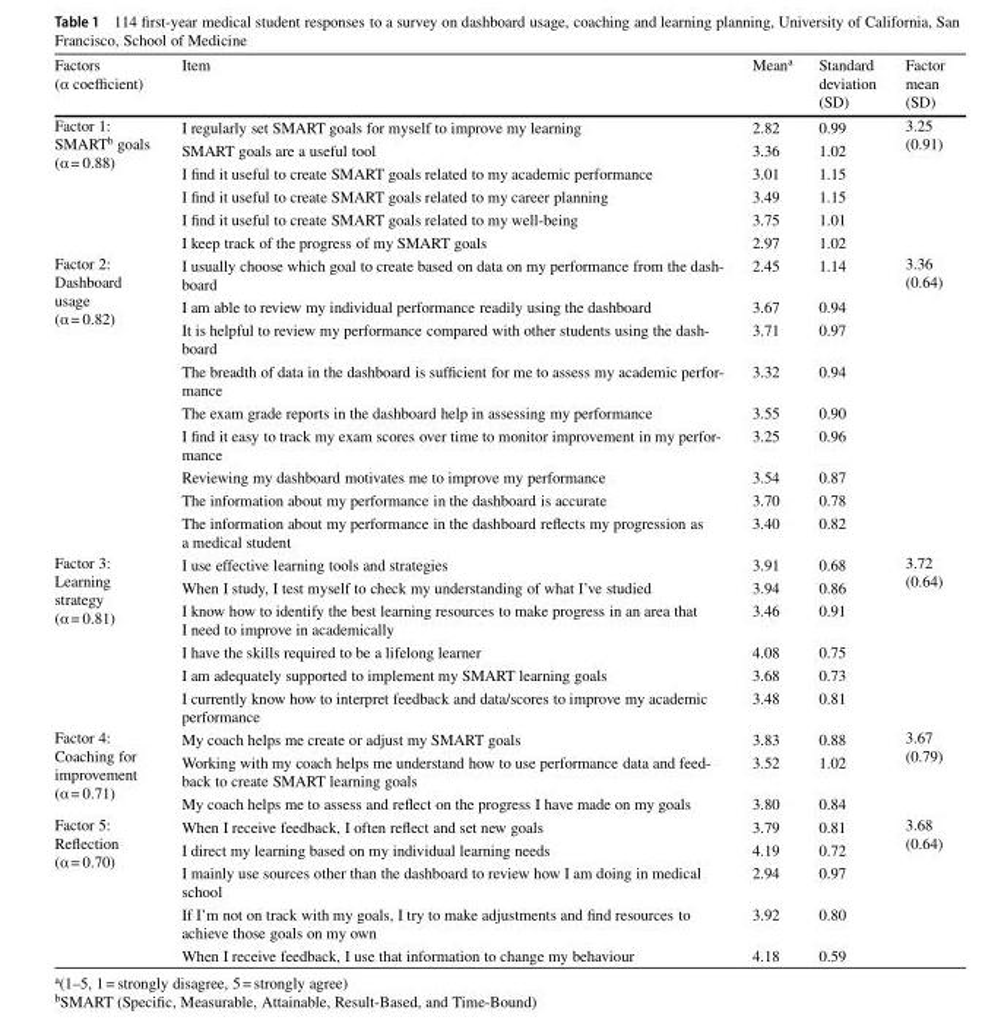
<table><thead><tr><td>Factors (α coefficient)</td><td>Item</td><td>Mean<sup>a</sup></td><td>Standard deviation (SD)</td><td>Factor mean (SD)</td></tr></thead><tbody><tr><td rowspan="6">Factor 1: SMART<sup>b</sup> goals (α= 0.88)</td><td>I regularly set SMART goals for myself to improve my learning</td><td>2.82</td><td>0.99</td><td rowspan="6">3.25 (0.91)</td></tr><tr><td>SMART goals are a useful tool</td><td>3.36</td><td>1.02</td></tr><tr><td>I find it useful to create SMART goals related to my academic performance</td><td>3.01</td><td>1.15</td></tr><tr><td>I find it useful to create SMART goals related to my career planning</td><td>3.49</td><td>1.15</td></tr><tr><td>I find it useful to create SMART goals related to my well-being</td><td>3.75</td><td>1.01</td></tr><tr><td>I keep track of the progress of my SMART goals</td><td>2.97</td><td>1.02</td></tr><tr><td rowspan="9">Factor 2: Dashboard usage (α= 0.82)</td><td>I usually choose which goal to create based on data on my performance from the dash- board</td><td>2.45</td><td>1.14</td><td rowspan="9">3.36 (0.64)</td></tr><tr><td>I am able to review my individual performance readily using the dashboard</td><td>3.67</td><td>0.94</td></tr><tr><td>It is helpful to review my performance compared with other students using the dash- board</td><td>3.71</td><td>0.97</td></tr><tr><td>The breadth of data in the dashboard is sufficient for me to assess my academic perfor- mance</td><td>3.32</td><td>0.94</td></tr><tr><td>The exam grade reports in the dashboard help in assessing my performance</td><td>3.55</td><td>0.90</td></tr><tr><td>I find it easy to track my exam scores over time to monitor improvement in my perfor- mance</td><td>3.25</td><td>0.96</td></tr><tr><td>Reviewing my dashboard motivates me to improve my performance</td><td>3.54</td><td>0.87</td></tr><tr><td>The information about my performance in the dashboard is accurate</td><td>3.70</td><td>0.78</td></tr><tr><td>The information about my performance in the dashboard reflects my progression as a medical student</td><td>3.40</td><td>0.82</td></tr><tr><td rowspan="6">Factor 3: Learning strategy (α= 0.81)</td><td>I use effective learning tools and strategies</td><td>3.91</td><td>0.68</td><td rowspan="6">3.72 (0.64)</td></tr><tr><td>When I study, I test myself to check my understanding of what I’ve studied</td><td>3.94</td><td>0.86</td></tr><tr><td>I know how to identify the best learning resources to make progress in an area that I need to improve in academically</td><td>3.46</td><td>0.91</td></tr><tr><td>I have the skills required to be a lifelong learner</td><td>4.08</td><td>0.75</td></tr><tr><td>I am adequately supported to implement my SMART learning goals</td><td>3.68</td><td>0.73</td></tr><tr><td>I currently know how to interpret feedback and data/scores to improve my academic performance</td><td>3.48</td><td>0.81</td></tr><tr><td rowspan="3">Factor 4: Coaching for improvement (α= 0.71)</td><td>My coach helps me create or adjust my SMART goals</td><td>3.83</td><td>0.88</td><td rowspan="3">3.67 (0.79)</td></tr><tr><td>Working with my coach helps me understand how to use performance data and feed- back to create SMART learning goals</td><td>3.52</td><td>1.02</td></tr><tr><td>My coach helps me to assess and reflect on the progress I have made on my goals</td><td>3.80</td><td>0.84</td></tr><tr><td rowspan="5">Factor 5: Reflection (α= 0.70)</td><td>When I receive feedback, I often reflect and set new goals</td><td>3.79</td><td>0.81</td><td rowspan="5">3.68 (0.64)</td></tr><tr><td>I direct my learning based on my individual learning needs</td><td>4.19</td><td>0.72</td></tr><tr><td>I mainly use sources other than the dashboard to review how I am doing in medical school</td><td>2.94</td><td>0.97</td></tr><tr><td>If I’m not on track with my goals, I try to make adjustments and find resources to achieve those goals on my own</td><td>3.92</td><td>0.80</td></tr><tr><td>When I receive feedback, I use that information to change my behaviour</td><td>4.18</td><td>0.59</td></tr></tbody></table>